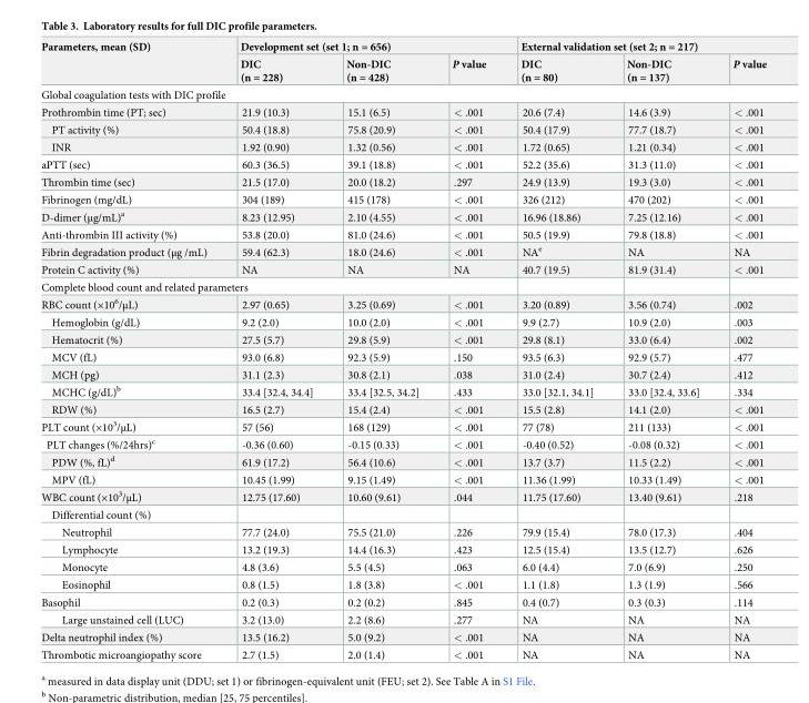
<table><thead><tr><td rowspan="2">Parameters, mean (SD)</td><td colspan="3">Development set (set 1; n = 656)</td><td colspan="3">External validation set (set 2; n = 217)</td></tr><tr><td>DIC (n = 228)</td><td>Non-DIC (n = 428)</td><td>P value</td><td>DIC (n = 80)</td><td>Non-DIC (n = 137)</td><td>P value</td></tr></thead><tbody><tr><td colspan="7">Global coagulation tests with DIC profile</td></tr><tr><td>Prothrombin time (PT; sec)</td><td>21.9 (10.3)</td><td>15.1 (6.5)</td><td>&lt; .001</td><td>20.6 (7.4)</td><td>14.6 (3.9)</td><td>&lt; .001</td></tr><tr><td>PT activity (%)</td><td>50.4 (18.8)</td><td>75.8 (20.9)</td><td>&lt; .001</td><td>50.4 (17.9)</td><td>77.7 (18.7)</td><td>&lt; .001</td></tr><tr><td>INR</td><td>1.92 (0.90)</td><td>1.32 (0.56)</td><td>&lt; .001</td><td>1.72 (0.65)</td><td>1.21 (0.34)</td><td>&lt; .001</td></tr><tr><td>aPTT (sec)</td><td>60.3 (36.5)</td><td>39.1 (18.8)</td><td>&lt; .001</td><td>52.2 (35.6)</td><td>31.3 (11.0)</td><td>&lt; .001</td></tr><tr><td>Thrombin time (sec)</td><td>21.5 (17.0)</td><td>20.0 (18.2)</td><td>.297</td><td>24.9 (13.9)</td><td>19.3 (3.0)</td><td>&lt; .001</td></tr><tr><td>Fibrinogen (mg/dL)</td><td>304 (189)</td><td>415 (178)</td><td>&lt; .001</td><td>326 (212)</td><td>470 (202)</td><td>&lt; .001</td></tr><tr><td>D-dimer (μg/mL)<sup>a</sup></td><td>8.23 (12.95)</td><td>2.10 (4.55)</td><td>&lt; .001</td><td>16.96 (18.86)</td><td>7.25 (12.16)</td><td>&lt; .001</td></tr><tr><td>Anti-thrombin III activity (%)</td><td>53.8 (20.0)</td><td>81.0 (24.6)</td><td>&lt; .001</td><td>50.5 (19.9)</td><td>79.8 (18.8)</td><td>&lt; .001</td></tr><tr><td>Fibrin degradation product (μg /mL)</td><td>59.4 (62.3)</td><td>18.0 (24.6)</td><td>&lt; .001</td><td>NA<sup>e</sup></td><td>NA</td><td>NA</td></tr><tr><td>Protein C activity (%)</td><td>NA</td><td>NA</td><td>NA</td><td>40.7 (19.5)</td><td>81.9 (31.4)</td><td>&lt; .001</td></tr><tr><td colspan="7">Complete blood count and related parameters</td></tr><tr><td>RBC count (×10<sup>6</sup>/μL)</td><td>2.97 (0.65)</td><td>3.25 (0.69)</td><td>&lt; .001</td><td>3.20 (0.89)</td><td>3.56 (0.74)</td><td>.002</td></tr><tr><td>Hemoglobin (g/dL)</td><td>9.2 (2.0)</td><td>10.0 (2.0)</td><td>&lt; .001</td><td>9.9 (2.7)</td><td>10.9 (2.0)</td><td>.003</td></tr><tr><td>Hematocrit (%)</td><td>27.5 (5.7)</td><td>29.8 (5.9)</td><td>&lt; .001</td><td>29.8 (8.1)</td><td>33.0 (6.4)</td><td>.002</td></tr><tr><td>MCV (fL)</td><td>93.0 (6.8)</td><td>92.3 (5.9)</td><td>.150</td><td>93.5 (6.3)</td><td>92.9 (5.7)</td><td>.477</td></tr><tr><td>MCH (pg)</td><td>31.1 (2.3)</td><td>30.8 (2.1)</td><td>.038</td><td>31.0 (2.4)</td><td>30.7 (2.4)</td><td>.412</td></tr><tr><td>MCHC (g/dL)<sup>b</sup></td><td>33.4 [32.4, 34.4]</td><td>33.4 [32.5, 34.2]</td><td>.433</td><td>33.0 [32.1, 34.1]</td><td>33.0 [32.4, 33.6]</td><td>.334</td></tr><tr><td>RDW (%)</td><td>16.5 (2.7)</td><td>15.4 (2.4)</td><td>&lt; .001</td><td>15.5 (2.8)</td><td>14.1 (2.0)</td><td>&lt; .001</td></tr><tr><td>PLT count (×10<sup>3</sup>/μL)</td><td>57 (56)</td><td>168 (129)</td><td>&lt; .001</td><td>77 (78)</td><td>211 (133)</td><td>&lt; .001</td></tr><tr><td>PLT changes (%/24hrs)<sup>c</sup></td><td>-0.36 (0.60)</td><td>-0.15 (0.33)</td><td>&lt; .001</td><td>-0.40 (0.52)</td><td>-0.08 (0.32)</td><td>&lt; .001</td></tr><tr><td>PDW (%, fL)<sup>d</sup></td><td>61.9 (17.2)</td><td>56.4 (10.6)</td><td>&lt; .001</td><td>13.7 (3.7)</td><td>11.5 (2.2)</td><td>&lt; .001</td></tr><tr><td>MPV (fL)</td><td>10.45 (1.99)</td><td>9.15 (1.49)</td><td>&lt; .001</td><td>11.36 (1.99)</td><td>10.33 (1.49)</td><td>&lt; .001</td></tr><tr><td>WBC count (×10<sup>3</sup>/μL)</td><td>12.75 (17.60)</td><td>10.60 (9.61)</td><td>.044</td><td>11.75 (17.60)</td><td>13.40 (9.61)</td><td>.218</td></tr><tr><td colspan="7">Differential count (%)</td></tr><tr><td>Neutrophil</td><td>77.7 (24.0)</td><td>75.5 (21.0)</td><td>.226</td><td>79.9 (15.4)</td><td>78.0 (17.3)</td><td>.404</td></tr><tr><td>Lymphocyte</td><td>13.2 (19.3)</td><td>14.4 (16.3)</td><td>.423</td><td>12.5 (15.4)</td><td>13.5 (12.7)</td><td>.626</td></tr><tr><td>Monocyte</td><td>4.8 (3.6)</td><td>5.5 (4.5)</td><td>.063</td><td>6.0 (4.4)</td><td>7.0 (6.9)</td><td>.250</td></tr><tr><td>Eosinophil</td><td>0.8 (1.5)</td><td>1.8 (3.8)</td><td>&lt; .001</td><td>1.1 (1.8)</td><td>1.3 (1.9)</td><td>.566</td></tr><tr><td>Basophil</td><td>0.2 (0.3)</td><td>0.2 (0.2)</td><td>.845</td><td>0.4 (0.7)</td><td>0.3 (0.3)</td><td>.114</td></tr><tr><td>Large unstained cell (LUC)</td><td>3.2 (13.0)</td><td>2.2 (8.6)</td><td>.277</td><td>NA</td><td>NA</td><td>NA</td></tr><tr><td>Delta neutrophil index (%)</td><td>13.5 (16.2)</td><td>5.0 (9.2)</td><td>&lt; .001</td><td>NA</td><td>NA</td><td>NA</td></tr><tr><td>Thrombotic microangiopathy score</td><td>2.7 (1.5)</td><td>2.0 (1.4)</td><td>&lt; .001</td><td>NA</td><td>NA</td><td>NA</td></tr></tbody></table>